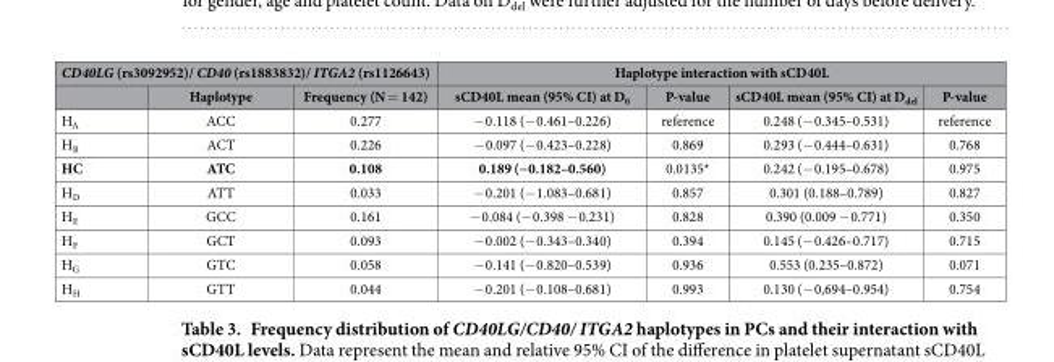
<table><thead><tr><td colspan="3">CD40LG (rs3092952)/ CD40 (rs1883832)/ ITGA2 (rs1126643)</td><td colspan="4">Haplotype interaction with sCD40L</td></tr><tr><td></td><td>Haplotype</td><td>Frequency (N = 142)</td><td>sCD40L mean (95% CI) at D<sub>0</sub></td><td>P-value</td><td>sCD40L mean (95% CI) at D<sub>del</sub></td><td>P-value</td></tr></thead><tbody><tr><td>H<sub>A</sub></td><td>ACC</td><td>0.277</td><td>− 0.118 (− 0.461–0.226)</td><td>reference</td><td>0.248 (− 0.345–0.531)</td><td>reference</td></tr><tr><td>H<sub>B</sub></td><td>ACT</td><td>0.226</td><td>− 0.097 (− 0.423–0.228)</td><td>0.869</td><td>0.293 (− 0.444–0.631)</td><td>0.768</td></tr><tr><td>H<sub>C</sub></td><td>ATC</td><td>0.108</td><td>0.189 (− 0.182–0.560)</td><td>0.0135*</td><td>0.242 (− 0.195–0.678)</td><td>0.975</td></tr><tr><td>H<sub>D</sub></td><td>ATT</td><td>0.033</td><td>− 0.201 (− 1.083–0.681)</td><td>0.857</td><td>0.301 (0.188–0.789)</td><td>0.827</td></tr><tr><td>H<sub>E</sub></td><td>GCC</td><td>0.161</td><td>− 0.084 (− 0.398 − 0.231)</td><td>0.828</td><td>0.390 (0.009 − 0.771)</td><td>0.350</td></tr><tr><td>H<sub>F</sub></td><td>GCT</td><td>0.093</td><td>− 0.002 (− 0.343–0.340)</td><td>0.394</td><td>0.145 (− 0.426–0.717)</td><td>0.715</td></tr><tr><td>H<sub>G</sub></td><td>GTC</td><td>0.058</td><td>− 0.141 (− 0.820–0.539)</td><td>0.936</td><td>0.553 (0.235–0.872)</td><td>0.071</td></tr><tr><td>H<sub>H</sub></td><td>GTT</td><td>0.044</td><td>− 0.201 (− 0.108–0.681)</td><td>0.993</td><td>0.130 (− 0,694–0.954)</td><td>0.754</td></tr></tbody></table>